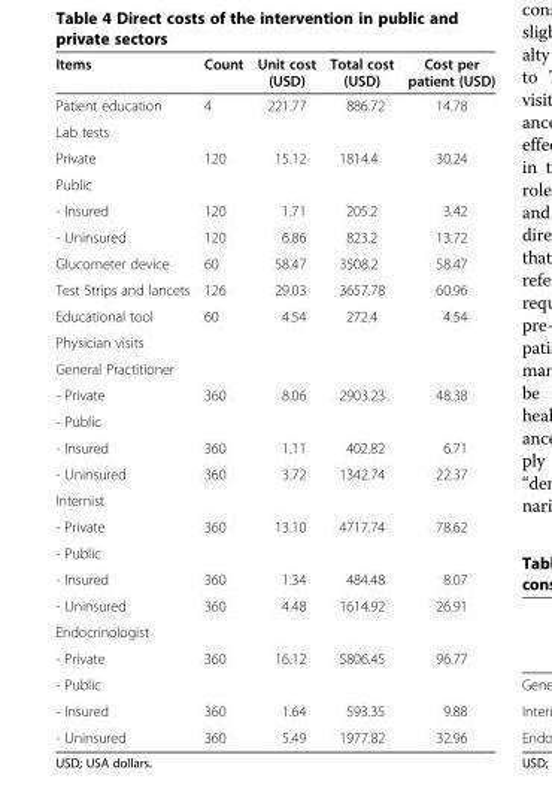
<table><thead><tr><td>Items</td><td>Count</td><td>Unit cost (USD)</td><td>Total cost (USD)</td><td>Cost per patient (USD)</td></tr></thead><tbody><tr><td>Patient education</td><td>4</td><td>221.77</td><td>886.72</td><td>14.78</td></tr><tr><td colspan="5">Lab tests</td></tr><tr><td>Private</td><td>120</td><td>15.12</td><td>1814.4</td><td>30.24</td></tr><tr><td colspan="5">Public</td></tr><tr><td>- Insured</td><td>120</td><td>1.71</td><td>205.2</td><td>3.42</td></tr><tr><td>- Uninsured</td><td>120</td><td>6.86</td><td>823.2</td><td>13.72</td></tr><tr><td>Glucometer device</td><td>60</td><td>58.47</td><td>3508.2</td><td>58.47</td></tr><tr><td>Test Strips and lancets</td><td>126</td><td>29.03</td><td>3657.78</td><td>60.96</td></tr><tr><td>Educational tool</td><td>60</td><td>4.54</td><td>272.4</td><td>4.54</td></tr><tr><td colspan="5">Physician visits</td></tr><tr><td colspan="5">General Practitioner</td></tr><tr><td>- Private</td><td>360</td><td>8.06</td><td>2903.23</td><td>48.38</td></tr><tr><td colspan="5">- Public</td></tr><tr><td>- Insured</td><td>360</td><td>1.11</td><td>402.82</td><td>6.71</td></tr><tr><td>- Uninsured</td><td>360</td><td>3.72</td><td>1342.74</td><td>22.37</td></tr><tr><td colspan="5">Internist</td></tr><tr><td>- Private</td><td>360</td><td>13.10</td><td>4717.74</td><td>78.62</td></tr><tr><td colspan="5">- Public</td></tr><tr><td>- Insured</td><td>360</td><td>1.34</td><td>484.48</td><td>8.07</td></tr><tr><td>- Uninsured</td><td>360</td><td>4.48</td><td>1614.92</td><td>26.91</td></tr><tr><td colspan="5">Endocrinologist</td></tr><tr><td>- Private</td><td>360</td><td>16.12</td><td>5806.45</td><td>96.77</td></tr><tr><td colspan="5">- Public</td></tr><tr><td>- Insured</td><td>360</td><td>1.64</td><td>593.35</td><td>9.88</td></tr><tr><td>- Uninsured</td><td>360</td><td>5.49</td><td>1977.82</td><td>32.96</td></tr></tbody></table>